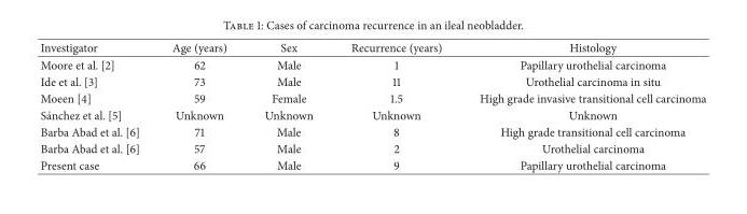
<table><thead><tr><td>Investigator</td><td>Age (years)</td><td>Sex</td><td>Recurrence (years)</td><td>Histology</td></tr></thead><tbody><tr><td>Moore et al. [2]</td><td>62</td><td>Male</td><td>1</td><td>Papillary urothelial carcinoma</td></tr><tr><td>Ide et al. [3]</td><td>73</td><td>Male</td><td>11</td><td>Urothelial carcinoma in situ</td></tr><tr><td>Moeen [4]</td><td>59</td><td>Female</td><td>1.5</td><td>High grade invasive transitional cell carcinoma</td></tr><tr><td>S´anchez et al. [5]</td><td>Unknown</td><td>Unknown</td><td>Unknown</td><td>Unknown</td></tr><tr><td>Barba Abad et al. [6]</td><td>71</td><td>Male</td><td>8</td><td>High grade transitional cell carcinoma</td></tr><tr><td>Barba Abad et al. [6]</td><td>57</td><td>Male</td><td>2</td><td>Urothelial carcinoma</td></tr><tr><td>Present case</td><td>66</td><td>Male</td><td>9</td><td>Papillary urothelial carcinoma</td></tr></tbody></table>